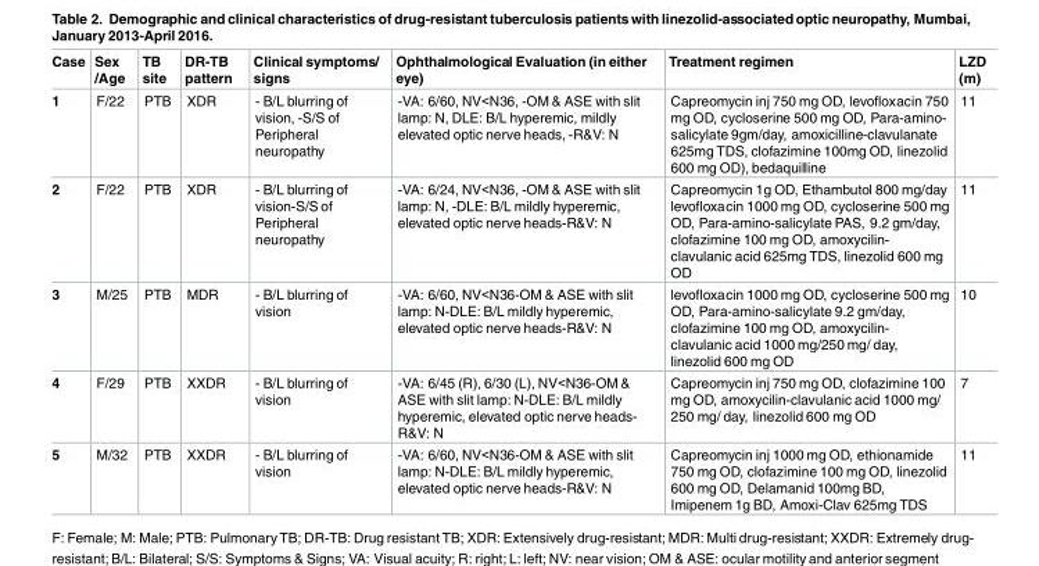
<table><thead><tr><td>Case</td><td>Sex /Age</td><td>TB site</td><td>DR-TB pattern</td><td>Clinical symptoms/ signs</td><td>Ophthalmological Evaluation (in either eye)</td><td>Treatment regimen</td><td>LZD (m)</td></tr></thead><tbody><tr><td>1</td><td>F/22</td><td>PTB</td><td>XDR</td><td>- B/L blurring of vision, -S/S of Peripheral neuropathy</td><td>-VA: 6/60, NV&lt;N36, -OM &amp; ASE with slit lamp: N, DLE: B/L hyperemic, mildly elevated optic nerve heads, -R&amp;V: N</td><td>Capreomycin inj 750 mg OD, levofloxacin 750 mg OD, cycloserine 500 mg OD, Para-amino- salicylate 9gm/day, amoxicilline-clavulanate 625mg TDS, clofazimine 100mg OD, linezolid 600 mg OD), bedaquilline</td><td>11</td></tr><tr><td>2</td><td>F/22</td><td>PTB</td><td>XDR</td><td>- B/L blurring of vision-S/S of Peripheral neuropathy</td><td>-VA: 6/24, NV&lt;N36, -OM &amp; ASE with slit lamp: N, -DLE: B/L mildly hyperemic, elevated optic nerve heads-R&amp;V: N</td><td>Capreomycin 1g OD, Ethambutol 800 mg/day levofloxacin 1000 mg OD, cycloserine 500 mg OD, Para-amino-salicylate PAS, 9.2 gm/day, clofazimine 100 mg OD, amoxycilin- clavulanic acid 625mg TDS, linezolid 600 mg OD</td><td>11</td></tr><tr><td>3</td><td>M/25</td><td>PTB</td><td>MDR</td><td>- B/L blurring of vision</td><td>-VA: 6/60, NV&lt;N36-OM &amp; ASE with slit lamp: N-DLE: B/L mildly hyperemic, elevated optic nerve heads-R&amp;V: N</td><td>levofloxacin 1000 mg OD, cycloserine 500 mg OD, Para-amino-salicylate 9.2 gm/day, clofazimine 100 mg OD, amoxycilin- clavulanic acid 1000 mg/250 mg/ day, linezolid 600 mg OD</td><td>10</td></tr><tr><td>4</td><td>F/29</td><td>PTB</td><td>XXDR</td><td>- B/L blurring of vision</td><td>-VA: 6/45 (R), 6/30 (L), NV&lt;N36-OM &amp; ASE with slit lamp: N-DLE: B/L mildly hyperemic, elevated optic nerve heads- R&amp;V: N</td><td>Capreomycin inj 750 mg OD, clofazimine 100 mg OD, amoxycilin-clavulanic acid 1000 mg/ 250 mg/ day, linezolid 600 mg OD</td><td>7</td></tr><tr><td>5</td><td>M/32</td><td>PTB</td><td>XXDR</td><td>- B/L blurring of vision</td><td>-VA: 6/60, NV&lt;N36-OM &amp; ASE with slit lamp: N-DLE: B/L mildly hyperemic, elevated optic nerve heads-R&amp;V: N</td><td>Capreomycin inj 1000 mg OD, ethionamide 750 mg OD, clofazimine 100 mg OD, linezolid 600 mg OD, Delamanid 100mg BD, Imipenem 1g BD, Amoxi-Clav 625mg TDS</td><td>11</td></tr></tbody></table>